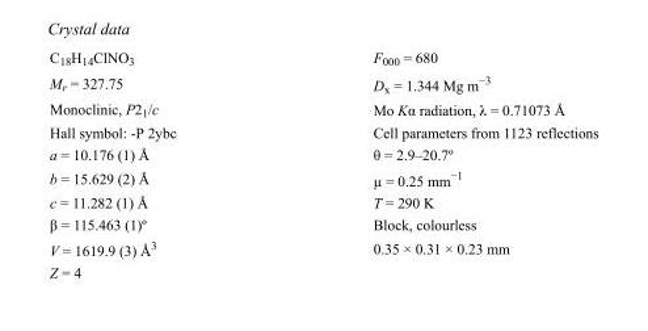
<table><tbody><tr><td>C<sub>18</sub>H<sub>14</sub>ClNO<sub>3</sub></td><td>F000 = 680</td></tr><tr><td>M<sub>r</sub> = 327.75</td><td>D<sub>x</sub> = 1.344 Mg m<sup>−3</sup></td></tr><tr><td>Monoclinic, P2<sub>1</sub>/c</td><td>Mo Kα radiation, λ = 0.71073 Å</td></tr><tr><td>Hall symbol: -P 2ybc</td><td>Cell parameters from 1123 reflections</td></tr><tr><td>a = 10.176 (1) Å</td><td>θ = 2.9–20.7º</td></tr><tr><td>b = 15.629 (2) Å</td><td>µ = 0.25 mm<sup>−1</sup></td></tr><tr><td>c = 11.282 (1) Å</td><td>T = 290 K</td></tr><tr><td>β = 115.463 (1)º</td><td>Block, colourless</td></tr><tr><td>V = 1619.9 (3) Å<sup>3</sup></td><td>0.35 × 0.31 × 0.23 mm</td></tr><tr><td>Z = 4</td><td></td></tr></tbody></table>